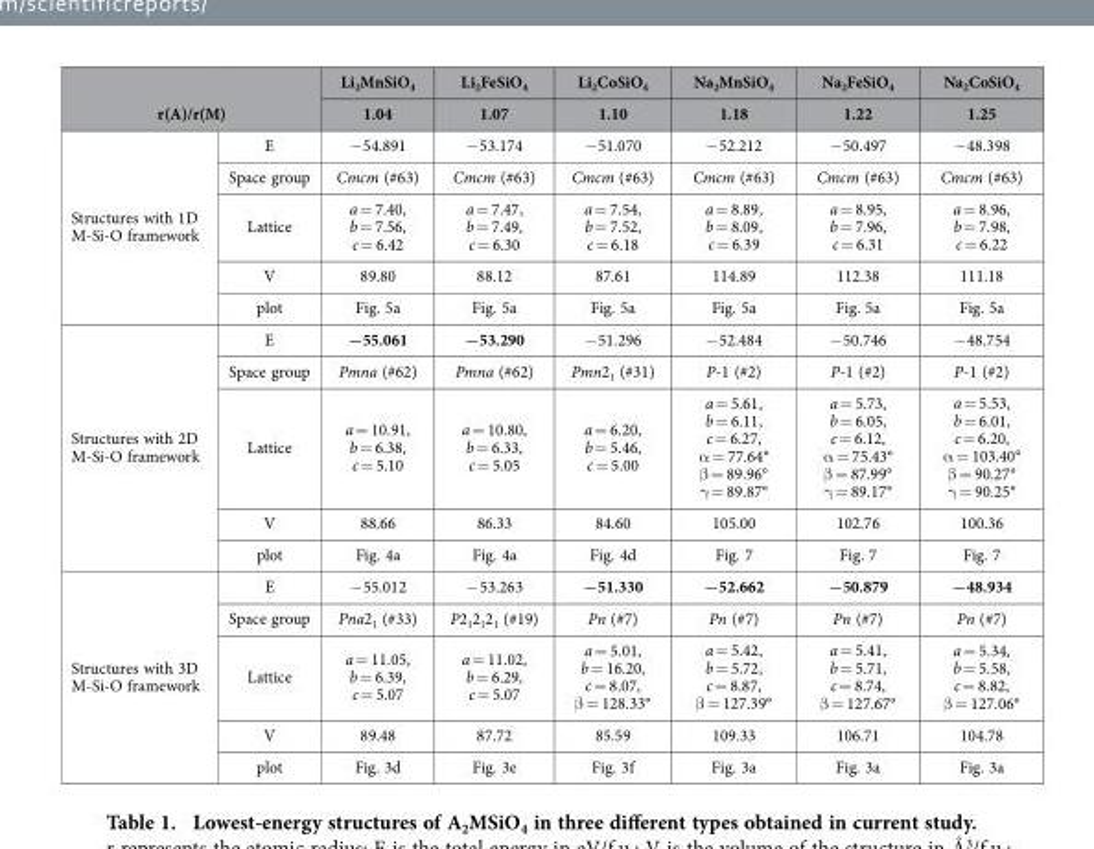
<table><thead><tr><td></td><td></td><td rowspan="2">Li<sub>2</sub>MnSiO<sub>4</sub> 1.04</td><td rowspan="2">Li<sub>2</sub>FeSiO<sub>4</sub> 1.07</td><td rowspan="2">Li<sub>2</sub>CoSiO<sub>4</sub> 1.10</td><td rowspan="2">Na<sub>2</sub>MnSiO<sub>4</sub> 1.18</td><td rowspan="2">Na<sub>2</sub>FeSiO<sub>4</sub> 1.22</td><td rowspan="2">Na<sub>2</sub>CoSiO<sub>4</sub> 1.25</td></tr><tr><td colspan="2">r(A)/r(M)</td></tr></thead><tbody><tr><td rowspan="5">Structures with 1D M-Si-O framework</td><td>E</td><td>− 54.891</td><td>− 53.174</td><td>− 51.070</td><td>− 52.212</td><td>− 50.497</td><td>− 48.398</td></tr><tr><td>Space group</td><td>Cmcm (#63)</td><td>Cmcm (#63)</td><td>Cmcm (#63)</td><td>Cmcm (#63)</td><td>Cmcm (#63)</td><td>Cmcm (#63)</td></tr><tr><td>Lattice</td><td>a = 7.40, b = 7.56, c = 6.42</td><td>a = 7.47, b = 7.49, c = 6.30</td><td>a = 7.54, b = 7.52, c = 6.18</td><td>a = 8.89, b = 8.09, c = 6.39</td><td>a = 8.95, b = 7.96, c = 6.31</td><td>a = 8.96, b = 7.98, c = 6.22</td></tr><tr><td>V</td><td>89.80</td><td>88.12</td><td>87.61</td><td>114.89</td><td>112.38</td><td>111.18</td></tr><tr><td>plot</td><td>Fig. 5a</td><td>Fig. 5a</td><td>Fig. 5a</td><td>Fig. 5a</td><td>Fig. 5a</td><td>Fig. 5a</td></tr><tr><td rowspan="5">Structures with 2D M-Si-O framework</td><td>E</td><td>−55.061</td><td>−53.290</td><td>− 51.296</td><td>− 52.484</td><td>− 50.746</td><td>− 48.754</td></tr><tr><td>Space group</td><td>Pmna (#62)</td><td>Pmna (#62)</td><td>Pmn2<sub>1</sub> (#31)</td><td>P-1 (#2)</td><td>P-1 (#2)</td><td>P-1 (#2)</td></tr><tr><td>Lattice</td><td>a = 10.91, b = 6.38, c = 5.10</td><td>a = 10.80, b = 6.33, c = 5.05</td><td>a = 6.20, b = 5.46, c = 5.00</td><td>a = 5.61, b = 6.11, c = 6.27, α = 77.64° β = 89.96° γ = 89.87°</td><td>a = 5.73, b = 6.05, c = 6.12, α = 75.43° β = 87.99° γ = 89.17°</td><td>a = 5.53, b = 6.01, c = 6.20, α = 103.40° β = 90.27° γ = 90.25°</td></tr><tr><td>V</td><td>88.66</td><td>86.33</td><td>84.60</td><td>105.00</td><td>102.76</td><td>100.36</td></tr><tr><td>plot</td><td>Fig. 4a</td><td>Fig. 4a</td><td>Fig. 4d</td><td>Fig. 7</td><td>Fig. 7</td><td>Fig. 7</td></tr><tr><td rowspan="5">Structures with 3D M-Si-O framework</td><td>E</td><td>− 55.012</td><td>− 53.263</td><td>−51.330</td><td>−52.662</td><td>−50.879</td><td>−48.934</td></tr><tr><td>Space group</td><td>Pna2<sub>1</sub> (#33)</td><td>P2<sub>1</sub>2<sub>1</sub>2<sub>1</sub> (#19)</td><td>Pn (#7)</td><td>Pn (#7)</td><td>Pn (#7)</td><td>Pn (#7)</td></tr><tr><td>Lattice</td><td>a = 11.05, b = 6.39, c = 5.07</td><td>a = 11.02, b = 6.29, c = 5.07</td><td>a = 5.01, b = 16.20, c = 8.07, β = 128.33°</td><td>a = 5.42, b = 5.72, c = 8.87, β = 127.39°</td><td>a = 5.41, b = 5.71, c = 8.74, β = 127.67°</td><td>a = 5.34, b = 5.58, c = 8.82, β = 127.06°</td></tr><tr><td>V</td><td>89.48</td><td>87.72</td><td>85.59</td><td>109.33</td><td>106.71</td><td>104.78</td></tr><tr><td>plot</td><td>Fig. 3d</td><td>Fig. 3e</td><td>Fig. 3f</td><td>Fig. 3a</td><td>Fig. 3a</td><td>Fig. 3a</td></tr></tbody></table>